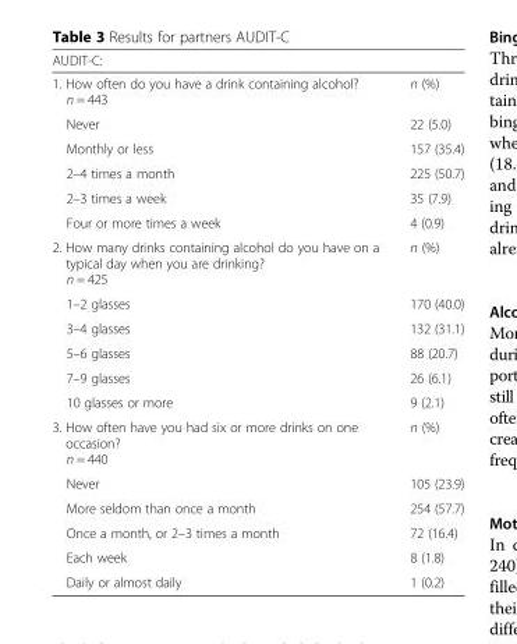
<table><thead><tr><td colspan="2">AUDIT-C:</td></tr><tr><td>1. How often do you have a drink containing alcohol? n = 443</td><td>n (%)</td></tr></thead><tbody><tr><td>Never</td><td>22 (5.0)</td></tr><tr><td>Monthly or less</td><td>157 (35.4)</td></tr><tr><td>2–4 times a month</td><td>225 (50.7)</td></tr><tr><td>2–3 times a week</td><td>35 (7.9)</td></tr><tr><td>Four or more times a week</td><td>4 (0.9)</td></tr><tr><td>2. How many drinks containing alcohol do you have on a typical day when you are drinking? n = 425</td><td>n (%)</td></tr><tr><td>1–2 glasses</td><td>170 (40.0)</td></tr><tr><td>3–4 glasses</td><td>132 (31.1)</td></tr><tr><td>5–6 glasses</td><td>88 (20.7)</td></tr><tr><td>7–9 glasses</td><td>26 (6.1)</td></tr><tr><td>10 glasses or more</td><td>9 (2.1)</td></tr><tr><td>3. How often have you had six or more drinks on one occasion? n = 440</td><td>n (%)</td></tr><tr><td>Never</td><td>105 (23.9)</td></tr><tr><td>More seldom than once a month</td><td>254 (57.7)</td></tr><tr><td>Once a month, or 2–3 times a month</td><td>72 (16.4)</td></tr><tr><td>Each week</td><td>8 (1.8)</td></tr><tr><td>Daily or almost daily</td><td>1 (0.2)</td></tr></tbody></table>